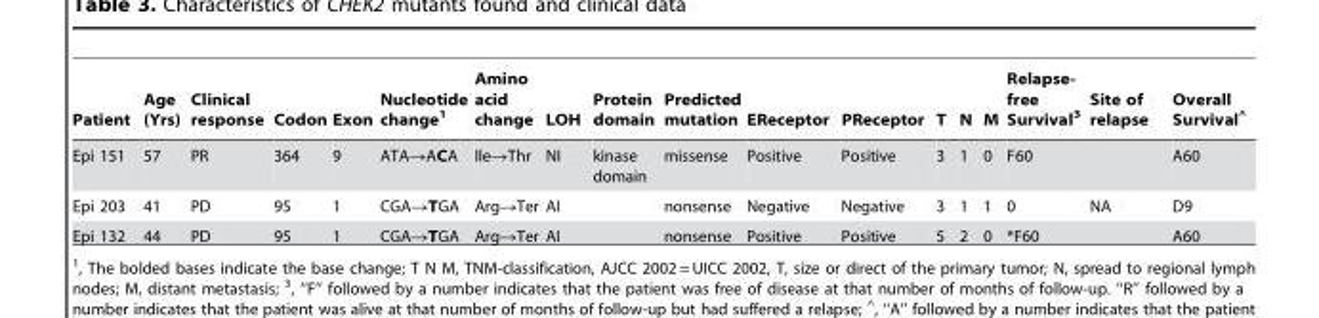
<table><thead><tr><td>Patient</td><td>Age (Yrs)</td><td>Clinical response</td><td>Codon</td><td>Exon</td><td>Nucleotide change<sup>1</sup></td><td>Amino acid change</td><td>LOH</td><td>Protein domain</td><td>Predicted mutation</td><td>EReceptor</td><td>PReceptor</td><td>T</td><td>N</td><td>M</td><td>Relapse- free Survival<sup>3</sup></td><td>Site of relapse</td><td>Overall Survival^</td></tr></thead><tbody><tr><td>Epi 151</td><td>57</td><td>PR</td><td>364</td><td>9</td><td>ATA→ACA</td><td>Ile→Thr</td><td>NI</td><td>kinase domain</td><td>missense</td><td>Positive</td><td>Positive</td><td>3</td><td>1</td><td>0</td><td>F60</td><td></td><td>A60</td></tr><tr><td>Epi 203</td><td>41</td><td>PD</td><td>95</td><td>1</td><td>CGA→TGA</td><td>Arg→Ter</td><td>AI</td><td></td><td>nonsense</td><td>Negative</td><td>Negative</td><td>3</td><td>1</td><td>1</td><td>0</td><td>NA</td><td>D9</td></tr><tr><td>Epi 132</td><td>44</td><td>PD</td><td>95</td><td>1</td><td>CGA→TGA</td><td>Arg→Ter</td><td>AI</td><td></td><td>nonsense</td><td>Positive</td><td>Positive</td><td>5</td><td>2</td><td>0</td><td>*F60</td><td></td><td>A60</td></tr></tbody></table>